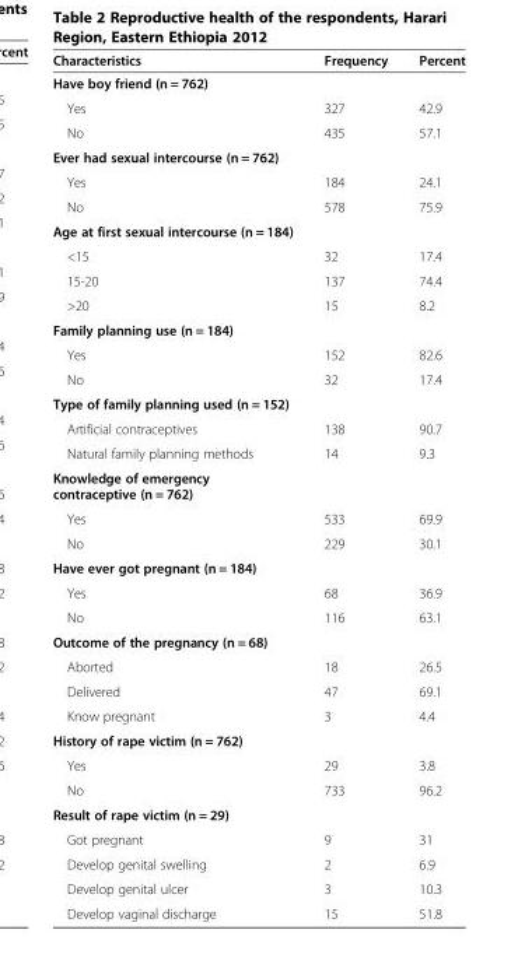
<table><thead><tr><td>Characteristics</td><td>Frequency</td><td>Percent</td></tr></thead><tbody><tr><td colspan="3">Have boy friend (n = 762)</td></tr><tr><td>Yes</td><td>327</td><td>42.9</td></tr><tr><td>No</td><td>435</td><td>57.1</td></tr><tr><td colspan="3">Ever had sexual intercourse (n = 762)</td></tr><tr><td>Yes</td><td>184</td><td>24.1</td></tr><tr><td>No</td><td>578</td><td>75.9</td></tr><tr><td colspan="3">Age at first sexual intercourse (n = 184)</td></tr><tr><td>&lt;15</td><td>32</td><td>17.4</td></tr><tr><td>15-20</td><td>137</td><td>74.4</td></tr><tr><td>&gt;20</td><td>15</td><td>8.2</td></tr><tr><td colspan="3">Family planning use (n = 184)</td></tr><tr><td>Yes</td><td>152</td><td>82.6</td></tr><tr><td>No</td><td>32</td><td>17.4</td></tr><tr><td colspan="3">Type of family planning used (n = 152)</td></tr><tr><td>Artificial contraceptives</td><td>138</td><td>90.7</td></tr><tr><td>Natural family planning methods</td><td>14</td><td>9.3</td></tr><tr><td colspan="3">Knowledge of emergency contraceptive (n = 762)</td></tr><tr><td>Yes</td><td>533</td><td>69.9</td></tr><tr><td>No</td><td>229</td><td>30.1</td></tr><tr><td colspan="3">Have ever got pregnant (n = 184)</td></tr><tr><td>Yes</td><td>68</td><td>36.9</td></tr><tr><td>No</td><td>116</td><td>63.1</td></tr><tr><td colspan="3">Outcome of the pregnancy (n = 68)</td></tr><tr><td>Aborted</td><td>18</td><td>26.5</td></tr><tr><td>Delivered</td><td>47</td><td>69.1</td></tr><tr><td>Know pregnant</td><td>3</td><td>4.4</td></tr><tr><td colspan="3">History of rape victim (n = 762)</td></tr><tr><td>Yes</td><td>29</td><td>3.8</td></tr><tr><td>No</td><td>733</td><td>96.2</td></tr><tr><td colspan="3">Result of rape victim (n = 29)</td></tr><tr><td>Got pregnant</td><td>9</td><td>31</td></tr><tr><td>Develop genital swelling</td><td>2</td><td>6.9</td></tr><tr><td>Develop genital ulcer</td><td>3</td><td>10.3</td></tr><tr><td>Develop vaginal discharge</td><td>15</td><td>51.8</td></tr></tbody></table>